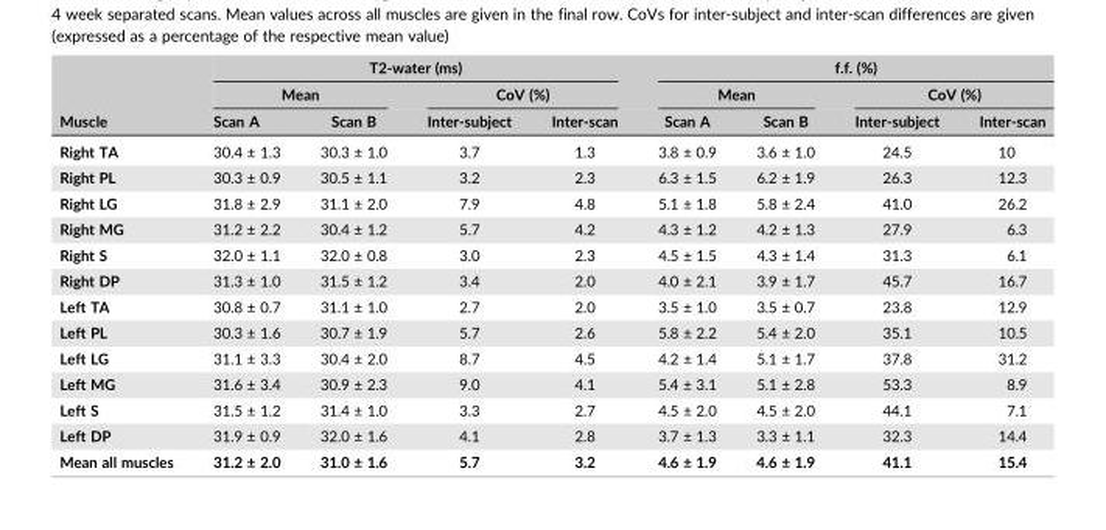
<table><thead><tr><td rowspan="3">Muscle</td><td colspan="4">T2‐water (ms)</td><td colspan="4">f.f. (%)</td></tr><tr><td colspan="2">Mean</td><td colspan="2">CoV (%)</td><td colspan="2">Mean</td><td colspan="2">CoV (%)</td></tr><tr><td>Scan A</td><td>Scan B</td><td>Inter‐subject</td><td>Inter‐scan</td><td>Scan A</td><td>Scan B</td><td>Inter‐subject</td><td>Inter‐scan</td></tr></thead><tbody><tr><td>Right TA</td><td>30.4 ± 1.3</td><td>30.3 ± 1.0</td><td>3.7</td><td>1.3</td><td>3.8 ± 0.9</td><td>3.6 ± 1.0</td><td>24.5</td><td>10</td></tr><tr><td>Right PL</td><td>30.3 ± 0.9</td><td>30.5 ± 1.1</td><td>3.2</td><td>2.3</td><td>6.3 ± 1.5</td><td>6.2 ± 1.9</td><td>26.3</td><td>12.3</td></tr><tr><td>Right LG</td><td>31.8 ± 2.9</td><td>31.1 ± 2.0</td><td>7.9</td><td>4.8</td><td>5.1 ± 1.8</td><td>5.8 ± 2.4</td><td>41.0</td><td>26.2</td></tr><tr><td>Right MG</td><td>31.2 ± 2.2</td><td>30.4 ± 1.2</td><td>5.7</td><td>4.2</td><td>4.3 ± 1.2</td><td>4.2 ± 1.3</td><td>27.9</td><td>6.3</td></tr><tr><td>Right S</td><td>32.0 ± 1.1</td><td>32.0 ± 0.8</td><td>3.0</td><td>2.3</td><td>4.5 ± 1.5</td><td>4.3 ± 1.4</td><td>31.3</td><td>6.1</td></tr><tr><td>Right DP</td><td>31.3 ± 1.0</td><td>31.5 ± 1.2</td><td>3.4</td><td>2.0</td><td>4.0 ± 2.1</td><td>3.9 ± 1.7</td><td>45.7</td><td>16.7</td></tr><tr><td>Left TA</td><td>30.8 ± 0.7</td><td>31.1 ± 1.0</td><td>2.7</td><td>2.0</td><td>3.5 ± 1.0</td><td>3.5 ± 0.7</td><td>23.8</td><td>12.9</td></tr><tr><td>Left PL</td><td>30.3 ± 1.6</td><td>30.7 ± 1.9</td><td>5.7</td><td>2.6</td><td>5.8 ± 2.2</td><td>5.4 ± 2.0</td><td>35.1</td><td>10.5</td></tr><tr><td>Left LG</td><td>31.1 ± 3.3</td><td>30.4 ± 2.0</td><td>8.7</td><td>4.5</td><td>4.2 ± 1.4</td><td>5.1 ± 1.7</td><td>37.8</td><td>31.2</td></tr><tr><td>Left MG</td><td>31.6 ± 3.4</td><td>30.9 ± 2.3</td><td>9.0</td><td>4.1</td><td>5.4 ± 3.1</td><td>5.1 ± 2.8</td><td>53.3</td><td>8.9</td></tr><tr><td>Left S</td><td>31.5 ± 1.2</td><td>31.4 ± 1.0</td><td>3.3</td><td>2.7</td><td>4.5 ± 2.0</td><td>4.5 ± 2.0</td><td>44.1</td><td>7.1</td></tr><tr><td>Left DP</td><td>31.9 ± 0.9</td><td>32.0 ± 1.6</td><td>4.1</td><td>2.8</td><td>3.7 ± 1.3</td><td>3.3 ± 1.1</td><td>32.3</td><td>14.4</td></tr><tr><td>Mean all muscles</td><td>31.2 ± 2.0</td><td>31.0 ± 1.6</td><td>5.7</td><td>3.2</td><td>4.6 ± 1.9</td><td>4.6 ± 1.9</td><td>41.1</td><td>15.4</td></tr></tbody></table>